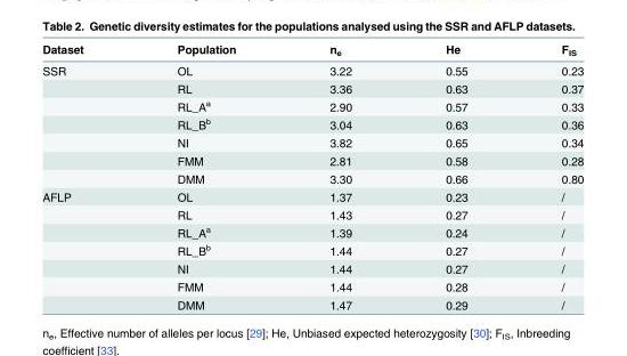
<table><thead><tr><td>Dataset</td><td>Population</td><td>n<sub>e</sub></td><td>He</td><td>F<sub>IS</sub></td></tr></thead><tbody><tr><td rowspan="7">SSR</td><td>OL</td><td>3.22</td><td>0.55</td><td>0.23</td></tr><tr><td>RL</td><td>3.36</td><td>0.63</td><td>0.37</td></tr><tr><td>RL_A<sup>a</sup></td><td>2.90</td><td>0.57</td><td>0.33</td></tr><tr><td>RL_B<sup>b</sup></td><td>3.04</td><td>0.63</td><td>0.36</td></tr><tr><td>NI</td><td>3.82</td><td>0.65</td><td>0.34</td></tr><tr><td>FMM</td><td>2.81</td><td>0.58</td><td>0.28</td></tr><tr><td>DMM</td><td>3.30</td><td>0.66</td><td>0.80</td></tr><tr><td rowspan="7">AFLP</td><td>OL</td><td>1.37</td><td>0.23</td><td>/</td></tr><tr><td>RL</td><td>1.43</td><td>0.27</td><td>/</td></tr><tr><td>RL_A<sup>a</sup></td><td>1.39</td><td>0.24</td><td>/</td></tr><tr><td>RL_B<sup>b</sup></td><td>1.44</td><td>0.27</td><td>/</td></tr><tr><td>NI</td><td>1.44</td><td>0.27</td><td>/</td></tr><tr><td>FMM</td><td>1.44</td><td>0.28</td><td>/</td></tr><tr><td>DMM</td><td>1.47</td><td>0.29</td><td>/</td></tr></tbody></table>